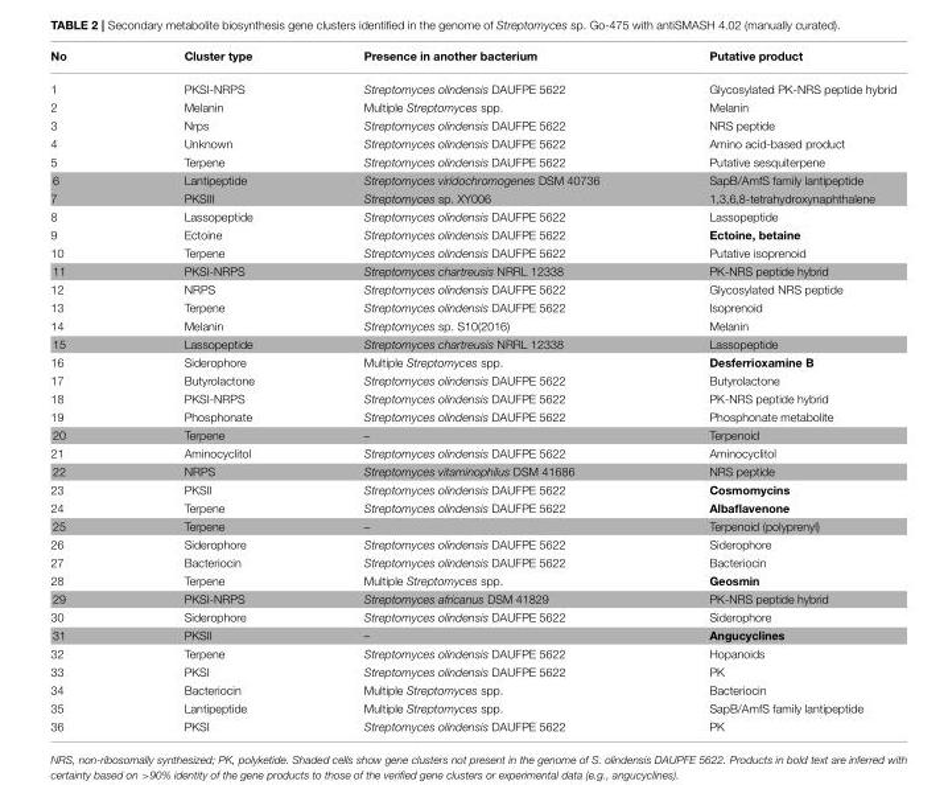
<table><thead><tr><td>No</td><td>Cluster type</td><td>Presence in another bacterium</td><td>Putative product</td></tr></thead><tbody><tr><td>1</td><td>PKSI-NRPS</td><td>Streptomyces olindensis DAUFPE 5622</td><td>Glycosylated PK-NRS peptide hybrid</td></tr><tr><td>2</td><td>Melanin</td><td>Multiple Streptomyces spp.</td><td>Melanin</td></tr><tr><td>3</td><td>Nrps</td><td>Streptomyces olindensis DAUFPE 5622</td><td>NRS peptide</td></tr><tr><td>4</td><td>Unknown</td><td>Streptomyces olindensis DAUFPE 5622</td><td>Amino acid-based product</td></tr><tr><td>5</td><td>Terpene</td><td>Streptomyces olindensis DAUFPE 5622</td><td>Putative sesquiterpene</td></tr><tr><td>6</td><td>Lantipeptide</td><td>Streptomyces viridochromogenes DSM 40736</td><td>SapB/AmfS family lantipeptide</td></tr><tr><td>7</td><td>PKSIII</td><td>Streptomyces sp. XY006</td><td>1,3,6,8-tetrahydroxynaphthalene</td></tr><tr><td>8</td><td>Lassopeptide</td><td>Streptomyces olindensis DAUFPE 5622</td><td>Lassopeptide</td></tr><tr><td>9</td><td>Ectoine</td><td>Streptomyces olindensis DAUFPE 5622</td><td>Ectoine, betaine</td></tr><tr><td>10</td><td>Terpene</td><td>Streptomyces olindensis DAUFPE 5622</td><td>Putative isoprenoid</td></tr><tr><td>11</td><td>PKSI-NRPS</td><td>Streptomyces chartreusis NRRL 12338</td><td>PK-NRS peptide hybrid</td></tr><tr><td>12</td><td>NRPS</td><td>Streptomyces olindensis DAUFPE 5622</td><td>Glycosylated NRS peptide</td></tr><tr><td>13</td><td>Terpene</td><td>Streptomyces olindensis DAUFPE 5622</td><td>Isoprenoid</td></tr><tr><td>14</td><td>Melanin</td><td>Streptomyces sp. S10(2016)</td><td>Melanin</td></tr><tr><td>15</td><td>Lassopeptide</td><td>Streptomyces chartreusis NRRL 12338</td><td>Lassopeptide</td></tr><tr><td>16</td><td>Siderophore</td><td>Multiple Streptomyces spp.</td><td>Desferrioxamine B</td></tr><tr><td>17</td><td>Butyrolactone</td><td>Streptomyces olindensis DAUFPE 5622</td><td>Butyrolactone</td></tr><tr><td>18</td><td>PKSI-NRPS</td><td>Streptomyces olindensis DAUFPE 5622</td><td>PK-NRS peptide hybrid</td></tr><tr><td>19</td><td>Phosphonate</td><td>Streptomyces olindensis DAUFPE 5622</td><td>Phosphonate metabolite</td></tr><tr><td>20</td><td>Terpene</td><td>–</td><td>Terpenoid</td></tr><tr><td>21</td><td>Aminocyclitol</td><td>Streptomyces olindensis DAUFPE 5622</td><td>Aminocyclitol</td></tr><tr><td>22</td><td>NRPS</td><td>Streptomyces vitaminophilus DSM 41686</td><td>NRS peptide</td></tr><tr><td>23</td><td>PKSII</td><td>Streptomyces olindensis DAUFPE 5622</td><td>Cosmomycins</td></tr><tr><td>24</td><td>Terpene</td><td>Streptomyces olindensis DAUFPE 5622</td><td>Albaflavenone</td></tr><tr><td>25</td><td>Terpene</td><td>–</td><td>Terpenoid (polyprenyl)</td></tr><tr><td>26</td><td>Siderophore</td><td>Streptomyces olindensis DAUFPE 5622</td><td>Siderophore</td></tr><tr><td>27</td><td>Bacteriocin</td><td>Streptomyces olindensis DAUFPE 5622</td><td>Bacteriocin</td></tr><tr><td>28</td><td>Terpene</td><td>Multiple Streptomyces spp.</td><td>Geosmin</td></tr><tr><td>29</td><td>PKSI-NRPS</td><td>Streptomyces africanus DSM 41829</td><td>PK-NRS peptide hybrid</td></tr><tr><td>30</td><td>Siderophore</td><td>Streptomyces olindensis DAUFPE 5622</td><td>Siderophore</td></tr><tr><td>31</td><td>PKSII</td><td>–</td><td>Angucyclines</td></tr><tr><td>32</td><td>Terpene</td><td>Streptomyces olindensis DAUFPE 5622</td><td>Hopanoids</td></tr><tr><td>33</td><td>PKSI</td><td>Streptomyces olindensis DAUFPE 5622</td><td>PK</td></tr><tr><td>34</td><td>Bacteriocin</td><td>Multiple Streptomyces spp.</td><td>Bacteriocin</td></tr><tr><td>35</td><td>Lantipeptide</td><td>Multiple Streptomyces spp.</td><td>SapB/AmfS family lantipeptide</td></tr><tr><td>36</td><td>PKSI</td><td>Streptomyces olindensis DAUFPE 5622</td><td>PK</td></tr></tbody></table>